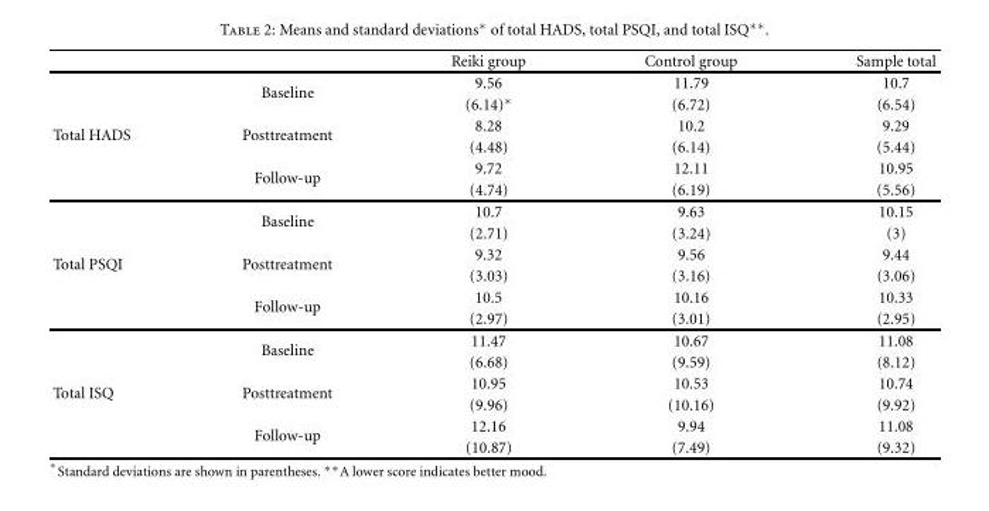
<table><thead><tr><td></td><td></td><td>Reiki group</td><td>Control group</td><td>Sample total</td></tr></thead><tbody><tr><td rowspan="6">Total HADS</td><td rowspan="2">Baseline</td><td>9.56</td><td>11.79</td><td>10.7</td></tr><tr><td>(6.14)∗</td><td>(6.72)</td><td>(6.54)</td></tr><tr><td rowspan="2">Posttreatment</td><td>8.28</td><td>10.2</td><td>9.29</td></tr><tr><td>(4.48)</td><td>(6.14)</td><td>(5.44)</td></tr><tr><td rowspan="2">Follow-up</td><td>9.72</td><td>12.11</td><td>10.95</td></tr><tr><td>(4.74)</td><td>(6.19)</td><td>(5.56)</td></tr><tr><td rowspan="6">Total PSQI</td><td rowspan="2">Baseline</td><td>10.7</td><td>9.63</td><td>10.15</td></tr><tr><td>(2.71)</td><td>(3.24)</td><td>(3)</td></tr><tr><td rowspan="2">Posttreatment</td><td>9.32</td><td>9.56</td><td>9.44</td></tr><tr><td>(3.03)</td><td>(3.16)</td><td>(3.06)</td></tr><tr><td rowspan="2">Follow-up</td><td>10.5</td><td>10.16</td><td>10.33</td></tr><tr><td>(2.97)</td><td>(3.01)</td><td>(2.95)</td></tr><tr><td rowspan="6">Total ISQ</td><td rowspan="2">Baseline</td><td>11.47</td><td>10.67</td><td>11.08</td></tr><tr><td>(6.68)</td><td>(9.59)</td><td>(8.12)</td></tr><tr><td rowspan="2">Posttreatment</td><td>10.95</td><td>10.53</td><td>10.74</td></tr><tr><td>(9.96)</td><td>(10.16)</td><td>(9.92)</td></tr><tr><td rowspan="2">Follow-up</td><td>12.16</td><td>9.94</td><td>11.08</td></tr><tr><td>(10.87)</td><td>(7.49)</td><td>(9.32)</td></tr></tbody></table>